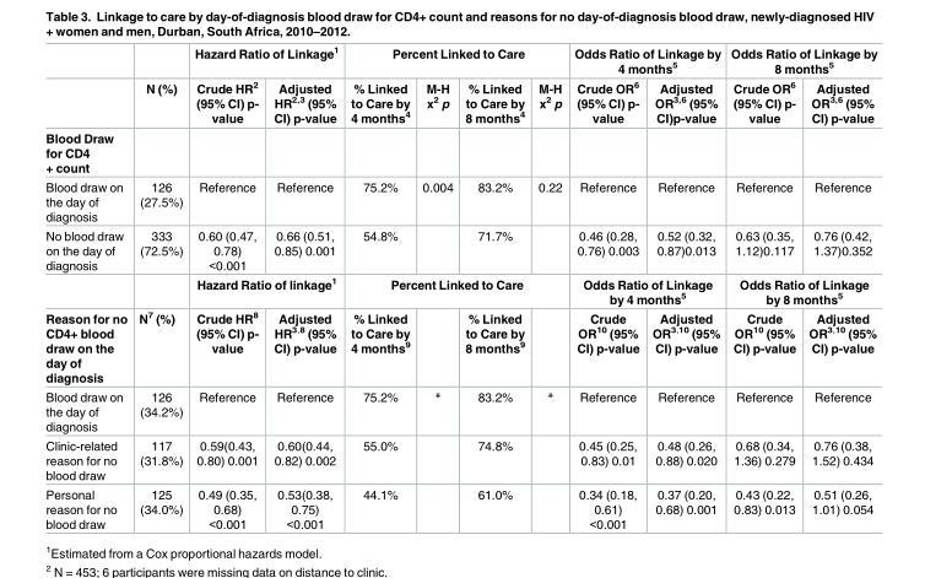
<table><thead><tr><td rowspan="2"></td><td rowspan="2">N (%)</td><td colspan="2">Hazard Ratio of Linkage<sup>1</sup></td><td colspan="4">Percent Linked to Care</td><td colspan="2">Odds Ratio of Linkage by 4 months<sup>5</sup></td><td colspan="2">Odds Ratio of Linkage by 8 months5</td></tr><tr><td>Crude HR<sup>2</sup> (95% CI) p- value</td><td>Adjusted HR<sup>2,3</sup> (95% CI) p-value</td><td>% Linked to Care by 4 months<sup>4</sup></td><td>M-H x<sup>2</sup> p</td><td>% Linked to Care by 8 months<sup>4</sup></td><td>M-H x<sup>2</sup> p</td><td>Crude OR<sup>6</sup> (95% CI) p- value</td><td>Adjusted OR<sup>3,6</sup> (95% CI)p-value</td><td>Crude OR<sup>6</sup> (95% CI) p- value</td><td>Adjusted OR<sup>3,6</sup> (95% CI) p-value</td></tr></thead><tbody><tr><td colspan="12">Blood Draw for CD4 + count</td></tr><tr><td>Blood draw on the day of diagnosis</td><td>126 (27.5%)</td><td>Reference</td><td>Reference</td><td>75.2%</td><td>0.004</td><td>83.2%</td><td>0.22</td><td>Reference</td><td>Reference</td><td>Reference</td><td>Reference</td></tr><tr><td rowspan="2">No blood draw on the day of diagnosis</td><td>333 (72.5%)</td><td>0.60 (0.47, 0.78) &lt;0.001</td><td>0.66 (0.51, 0.85) 0.001</td><td>54.8%</td><td></td><td>71.7%</td><td></td><td>0.46 (0.28, 0.76) 0.003</td><td>0.52 (0.32, 0.87)0.013</td><td>0.63 (0.35, 1.12)0.117</td><td>0.76 (0.42, 1.37)0.352</td></tr><tr><td></td><td colspan="2">Hazard Ratio of linkage<sup>1</sup></td><td colspan="4">Percent Linked to Care</td><td colspan="2">Odds Ratio of Linkage by 4 months<sup>5</sup></td><td colspan="2">Odds Ratio of Linkage by 8 months<sup>5</sup></td></tr><tr><td>Reason for no CD4+ blood draw on the day of diagnosis</td><td>N<sup>7</sup> (%)</td><td>Crude HR<sup>8</sup> (95% CI) p- value</td><td>Adjusted HR<sup>3,8</sup> (95% CI) p-value</td><td>% Linked to Care by 4 months<sup>9</sup></td><td></td><td>% Linked to Care by 8 months<sup>9</sup></td><td></td><td>Crude OR<sup>10</sup> (95% CI) p-value</td><td>Adjusted OR<sup>3,10</sup> (95% CI) p-value</td><td>Crude OR<sup>10</sup> (95% CI) p-value</td><td>Adjusted OR<sup>3,10</sup> (95% CI) p-value</td></tr><tr><td>Blood draw on the day of diagnosis</td><td>126 (34.2%)</td><td>Reference</td><td>Reference</td><td>75.2%</td><td>*</td><td>83.2%</td><td>*</td><td>Reference</td><td>Reference</td><td>Reference</td><td>Reference</td></tr><tr><td>Clinic-related reason for no blood draw</td><td>117 (31.8%)</td><td>0.59(0.43, 0.80) 0.001</td><td>0.60(0.44, 0.82) 0.002</td><td>55.0%</td><td></td><td>74.8%</td><td></td><td>0.45 (0.25, 0.83) 0.01</td><td>0.48 (0.26, 0.88) 0.020</td><td>0.68 (0.34, 1.36) 0.279</td><td>0.76 (0.38, 1.52) 0.434</td></tr><tr><td>Personal reason for no blood draw</td><td>125 (34.0%)</td><td>0.49 (0.35, 0.68) &lt;0.001</td><td>0.53(0.38, 0.75) &lt;0.001</td><td>44.1%</td><td></td><td>61.0%</td><td></td><td>0.34 (0.18, 0.61) &lt;0.001</td><td>0.37 (0.20, 0.68) 0.001</td><td>0.43 (0.22, 0.83) 0.013</td><td>0.51 (0.26, 1.01) 0.054</td></tr></tbody></table>